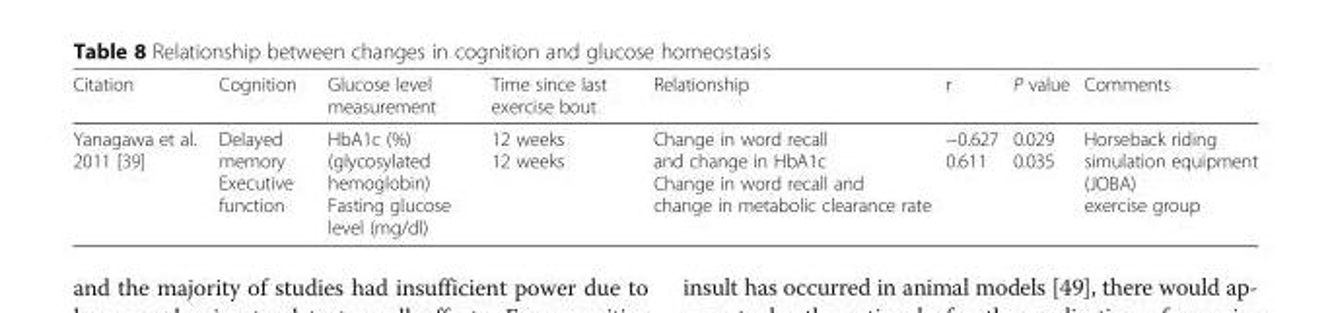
<table><thead><tr><td>Citation</td><td>Cognition</td><td>Glucose level measurement</td><td>Time since last exercise bout</td><td>Relationship</td><td>r</td><td>P value</td><td>Comments</td></tr></thead><tbody><tr><td>Yanagawa et al. 2011 [39]</td><td>Delayed memory Executive function</td><td>HbA1c (%) (glycosylated hemoglobin) Fasting glucose level (mg/dl)</td><td>12 weeks 12 weeks</td><td>Change in word recall and change in HbA1c Change in word recall and change in metabolic clearance rate</td><td>−0.627 0.611</td><td>0.029 0.035</td><td>Horseback riding simulation equipment (JOBA) exercise group</td></tr></tbody></table>